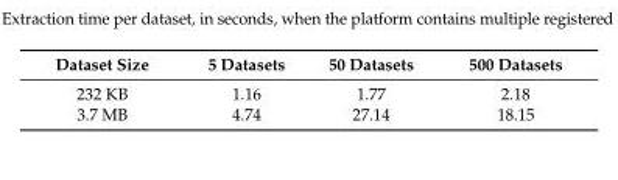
<table><thead><tr><td>Dataset Size</td><td>5 Datasets</td><td>50 Datasets</td><td>500 Datasets</td></tr></thead><tbody><tr><td>232 KB</td><td>1.16</td><td>1.77</td><td>2.18</td></tr><tr><td>3.7 MB</td><td>4.74</td><td>27.14</td><td>18.15</td></tr></tbody></table>